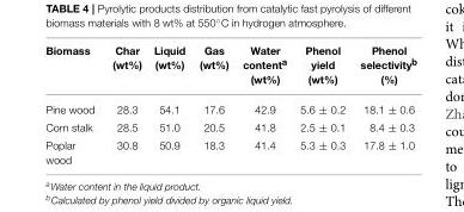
<table><thead><tr><td>Biomass</td><td>Char (wt%)</td><td>Liquid (wt%)</td><td>Gas (wt%)</td><td>Water content<sup>a</sup> (wt%)</td><td>Phenol yield (wt%)</td><td>Phenol selectivity<sup>b</sup> (%)</td></tr></thead><tbody><tr><td>Pine wood</td><td>28.3</td><td>54.1</td><td>17.6</td><td>42.9</td><td>5.6 ± 0.2</td><td>18.1 ± 0.6</td></tr><tr><td>Corn stalk</td><td>28.5</td><td>51.0</td><td>20.5</td><td>41.8</td><td>2.5 ± 0.1</td><td>8.4 ± 0.3</td></tr><tr><td>Poplar wood</td><td>30.8</td><td>50.9</td><td>18.3</td><td>41.4</td><td>5.3 ± 0.3</td><td>17.8 ± 1.0</td></tr></tbody></table>